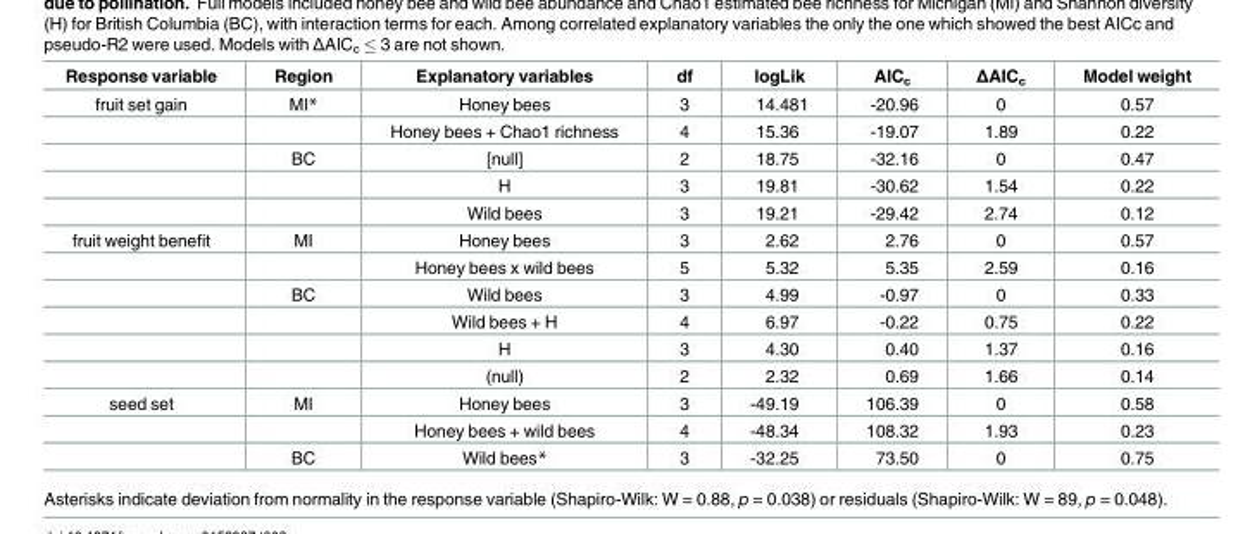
<table><thead><tr><td>Response variable</td><td>Region</td><td>Explanatory variables</td><td>df</td><td>logLik</td><td>AIC<sub>c</sub></td><td>ΔAIC<sub>c</sub></td><td>Model weight</td></tr></thead><tbody><tr><td rowspan="5">fruit set gain</td><td>MI*</td><td>Honey bees</td><td>3</td><td>14.481</td><td>-20.96</td><td>0</td><td>0.57</td></tr><tr><td></td><td>Honey bees + Chao1 richness</td><td>4</td><td>15.36</td><td>-19.07</td><td>1.89</td><td>0.22</td></tr><tr><td>BC</td><td>[null]</td><td>2</td><td>18.75</td><td>-32.16</td><td>0</td><td>0.47</td></tr><tr><td></td><td>H</td><td>3</td><td>19.81</td><td>-30.62</td><td>1.54</td><td>0.22</td></tr><tr><td></td><td>Wild bees</td><td>3</td><td>19.21</td><td>-29.42</td><td>2.74</td><td>0.12</td></tr><tr><td rowspan="6">fruit weight benefit</td><td>MI</td><td>Honey bees</td><td>3</td><td>2.62</td><td>2.76</td><td>0</td><td>0.57</td></tr><tr><td></td><td>Honey bees x wild bees</td><td>5</td><td>5.32</td><td>5.35</td><td>2.59</td><td>0.16</td></tr><tr><td>BC</td><td>Wild bees</td><td>3</td><td>4.99</td><td>-0.97</td><td>0</td><td>0.33</td></tr><tr><td></td><td>Wild bees + H</td><td>4</td><td>6.97</td><td>-0.22</td><td>0.75</td><td>0.22</td></tr><tr><td></td><td>H</td><td>3</td><td>4.30</td><td>0.40</td><td>1.37</td><td>0.16</td></tr><tr><td></td><td>(null)</td><td>2</td><td>2.32</td><td>0.69</td><td>1.66</td><td>0.14</td></tr><tr><td rowspan="3">seed set</td><td>MI</td><td>Honey bees</td><td>3</td><td>-49.19</td><td>106.39</td><td>0</td><td>0.58</td></tr><tr><td></td><td>Honey bees + wild bees</td><td>4</td><td>-48.34</td><td>108.32</td><td>1.93</td><td>0.23</td></tr><tr><td>BC</td><td>Wild bees*</td><td>3</td><td>-32.25</td><td>73.50</td><td>0</td><td>0.75</td></tr></tbody></table>